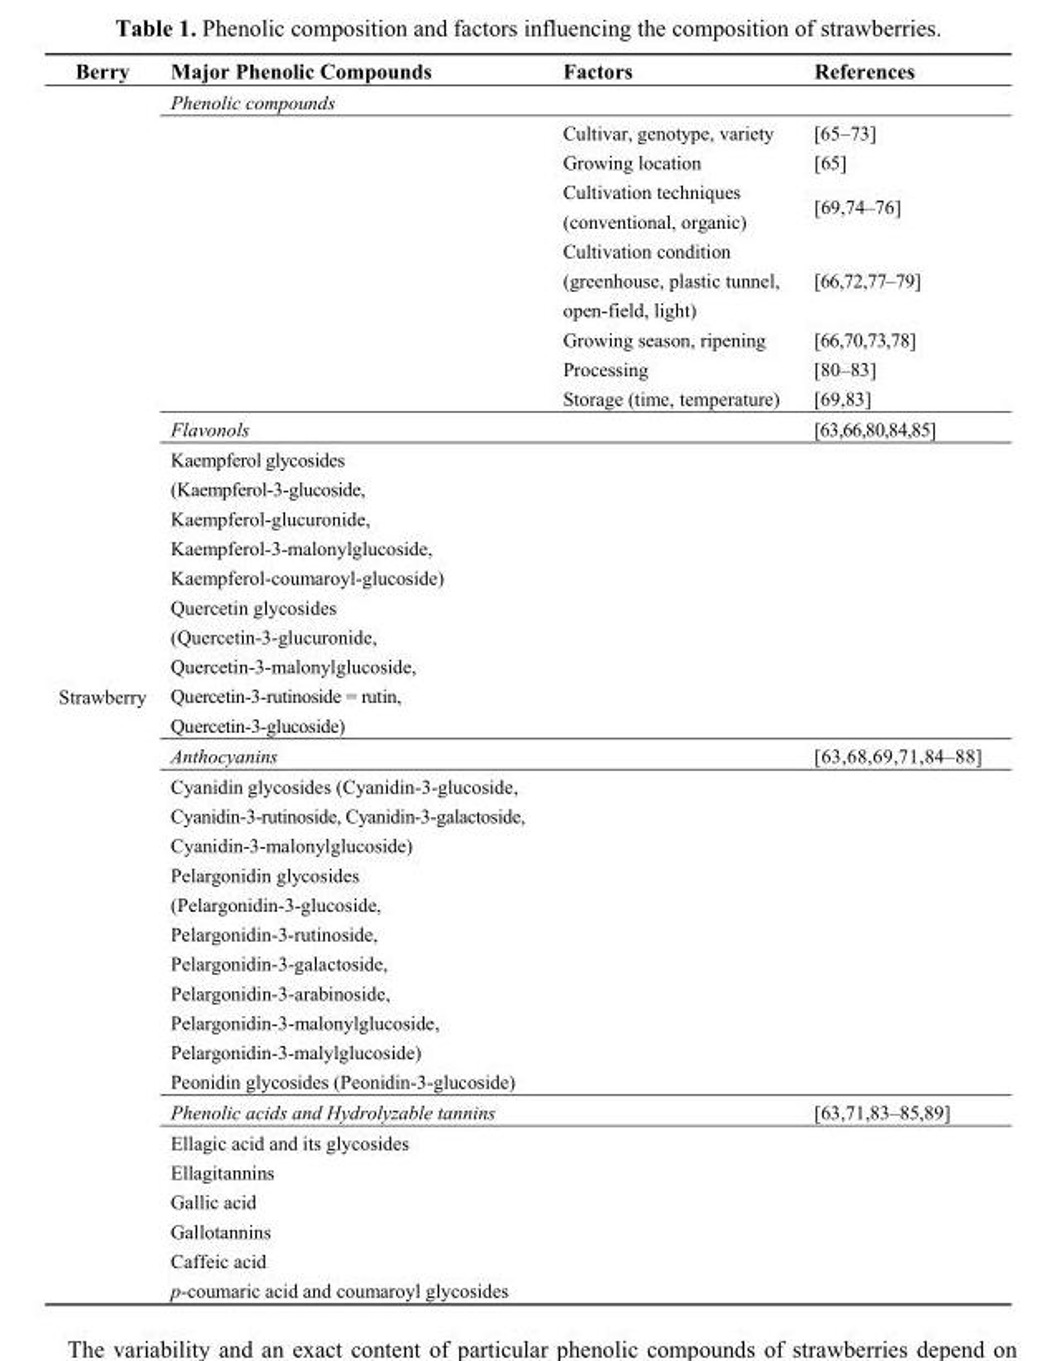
<table><thead><tr><td>Berry</td><td>Major Phenolic Compounds</td><td>Factors</td><td>References</td></tr></thead><tbody><tr><td rowspan="19">Strawberry</td><td>Phenolic compounds</td><td colspan="2"></td></tr><tr><td></td><td>Cultivar, genotype, variety</td><td>[65–73]</td></tr><tr><td></td><td>Growing location</td><td>[65]</td></tr><tr><td></td><td>Cultivation techniques (conventional, organic)</td><td>[69,74–76]</td></tr><tr><td></td><td>Cultivation condition (greenhouse, plastic tunnel, open-field, light)</td><td>[66,72,77–79]</td></tr><tr><td></td><td>Growing season, ripening</td><td>[66,70,73,78]</td></tr><tr><td></td><td>Processing</td><td>[80–83]</td></tr><tr><td></td><td>Storage (time, temperature)</td><td>[69,83]</td></tr><tr><td>Flavonols</td><td></td><td>[63,66,80,84,85]</td></tr><tr><td>Kaempferol glycosides (Kaempferol-3-glucoside, Kaempferol-glucuronide, Kaempferol-3-malonylglucoside, Kaempferol-coumaroyl-glucoside) Quercetin glycosides (Quercetin-3-glucuronide, Quercetin-3-malonylglucoside, Quercetin-3-rutinoside = rutin, Quercetin-3-glucoside)</td><td colspan="2"></td></tr><tr><td>Anthocyanins</td><td></td><td>[63,68,69,71,84–88]</td></tr><tr><td>Cyanidin glycosides (Cyanidin-3-glucoside, Cyanidin-3-rutinoside, Cyanidin-3-galactoside, Cyanidin-3-malonylglucoside) Pelargonidin glycosides (Pelargonidin-3-glucoside, Pelargonidin-3-rutinoside, Pelargonidin-3-galactoside, Pelargonidin-3-arabinoside, Pelargonidin-3-malonylglucoside, Pelargonidin-3-malylglucoside) Peonidin glycosides (Peonidin-3-glucoside)</td><td colspan="2"></td></tr><tr><td>Phenolic acids and Hydrolyzable tannins</td><td></td><td>[63,71,83–85,89]</td></tr><tr><td>Ellagic acid and its glycosides</td><td></td><td></td></tr><tr><td>Ellagitannins</td><td></td><td></td></tr><tr><td>Gallic acid</td><td></td><td></td></tr><tr><td>Gallotannins</td><td></td><td></td></tr><tr><td>Caffeic acid</td><td></td><td></td></tr><tr><td>p-coumaric acid and coumaroyl glycosides</td><td colspan="2"></td></tr></tbody></table>